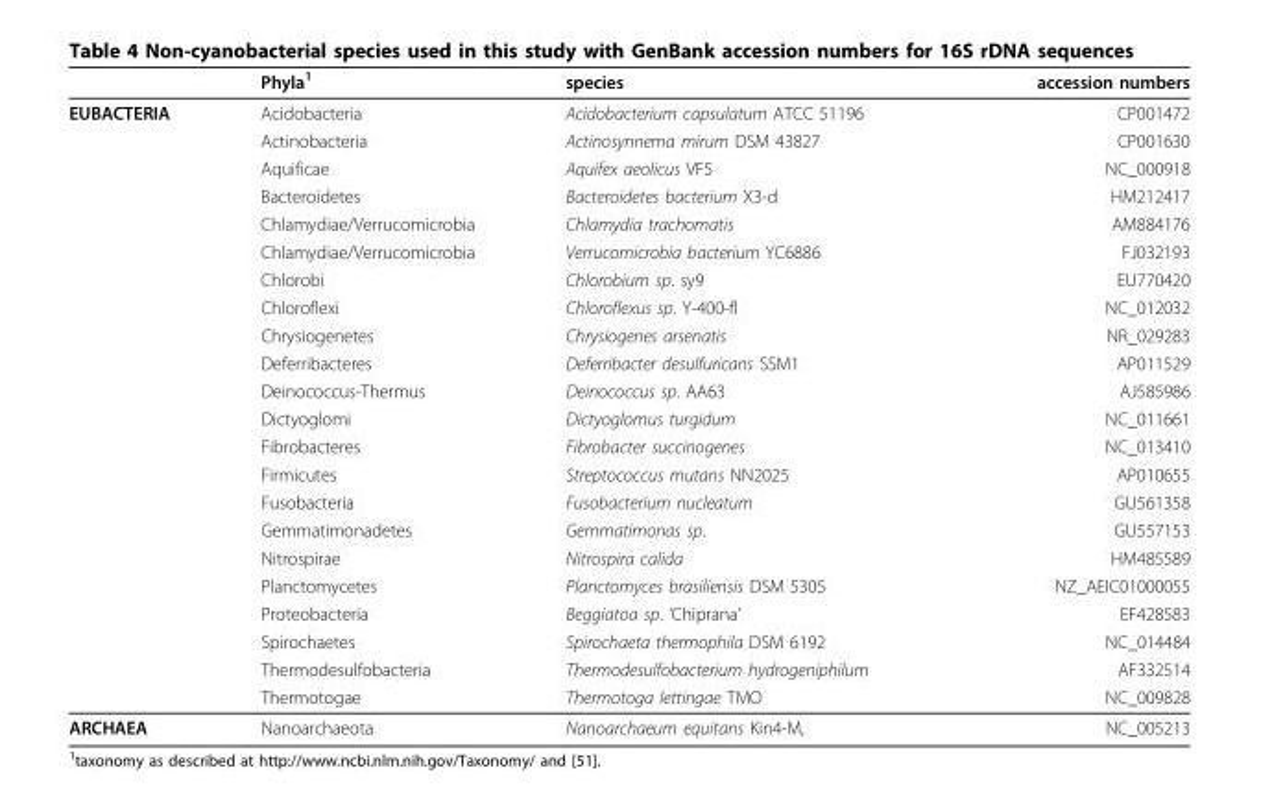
<table><thead><tr><td></td><td>Phyla<sup>1</sup></td><td>species</td><td>accession numbers</td></tr></thead><tbody><tr><td rowspan="22">EUBACTERIA</td><td>Acidobacteria</td><td>Acidobacterium capsulatum ATCC 51196</td><td>CP001472</td></tr><tr><td>Actinobacteria</td><td>Actinosynnema mirum DSM 43827</td><td>CP001630</td></tr><tr><td>Aquificae</td><td>Aquifex aeolicus VF5</td><td>NC_000918</td></tr><tr><td>Bacteroidetes</td><td>Bacteroidetes bacterium X3-d</td><td>HM212417</td></tr><tr><td>Chlamydiae/Verrucomicrobia</td><td>Chlamydia trachomatis</td><td>AM884176</td></tr><tr><td>Chlamydiae/Verrucomicrobia</td><td>Verrucomicrobia bacterium YC6886</td><td>FJ032193</td></tr><tr><td>Chlorobi</td><td>Chlorobium sp. sy9</td><td>EU770420</td></tr><tr><td>Chloroflexi</td><td>Chloroflexus sp. Y-400-fl</td><td>NC_012032</td></tr><tr><td>Chrysiogenetes</td><td>Chrysiogenes arsenatis</td><td>NR_029283</td></tr><tr><td>Deferribacteres</td><td>Deferribacter desulfuricans SSM1</td><td>AP011529</td></tr><tr><td>Deinococcus-Thermus</td><td>Deinococcus sp. AA63</td><td>AJ585986</td></tr><tr><td>Dictyoglomi</td><td>Dictyoglomus turgidum</td><td>NC_011661</td></tr><tr><td>Fibrobacteres</td><td>Fibrobacter succinogenes</td><td>NC_013410</td></tr><tr><td>Firmicutes</td><td>Streptococcus mutans NN2025</td><td>AP010655</td></tr><tr><td>Fusobacteria</td><td>Fusobacterium nucleatum</td><td>GU561358</td></tr><tr><td>Gemmatimonadetes</td><td>Gemmatimonas sp.</td><td>GU557153</td></tr><tr><td>Nitrospirae</td><td>Nitrospira calida</td><td>HM485589</td></tr><tr><td>Planctomycetes</td><td>Planctomyces brasiliensis DSM 5305</td><td>NZ_AEIC01000055</td></tr><tr><td>Proteobacteria</td><td>Beggiatoa sp. ‘Chiprana’</td><td>EF428583</td></tr><tr><td>Spirochaetes</td><td>Spirochaeta thermophila DSM 6192</td><td>NC_014484</td></tr><tr><td>Thermodesulfobacteria</td><td>Thermodesulfobacterium hydrogeniphilum</td><td>AF332514</td></tr><tr><td>Thermotogae</td><td>Thermotoga lettingae TMO</td><td>NC_009828</td></tr><tr><td>ARCHAEA</td><td>Nanoarchaeota</td><td>Nanoarchaeum equitans Kin4-M,</td><td>NC_005213</td></tr></tbody></table>